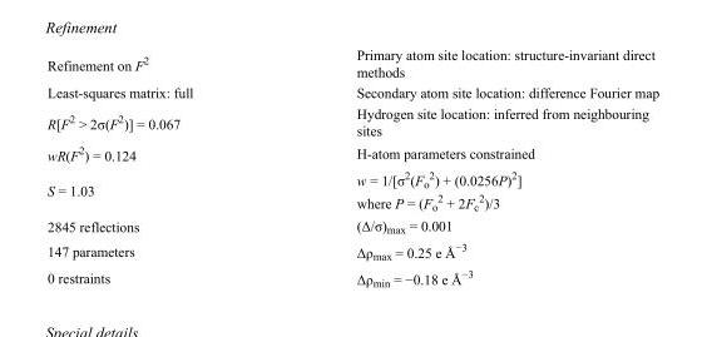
<table><tbody><tr><td>Refinement on F<sup>2</sup></td><td>Primary atom site location: structure-invariant direct methods</td></tr><tr><td>Least-squares matrix: full</td><td>Secondary atom site location: difference Fourier map</td></tr><tr><td>R[F<sup>2</sup> &gt; 2σ(F<sup>2</sup>)] = 0.067</td><td>Hydrogen site location: inferred from neighbouring sites</td></tr><tr><td>wR(F<sup>2</sup>) = 0.124</td><td>H-atom parameters constrained</td></tr><tr><td>S = 1.03</td><td>w = 1/[σ<sup>2</sup>(F<sub>o</sub> <sup>2</sup>) + (0.0256P)<sup>2</sup>] where P = (F<sub>o</sub> <sup>2</sup> + 2F<sub>c</sub> <sup>2</sup>)/3</td></tr><tr><td>2845 reflections</td><td>(Δ/σ)<sub>max</sub> = 0.001</td></tr><tr><td>147 parameters</td><td>Δρ<sub>max</sub> = 0.25 e Å<sup>−3</sup></td></tr><tr><td>0 restraints</td><td>Δρ<sub>min</sub> = −0.18 e Å<sup>−3</sup></td></tr></tbody></table>